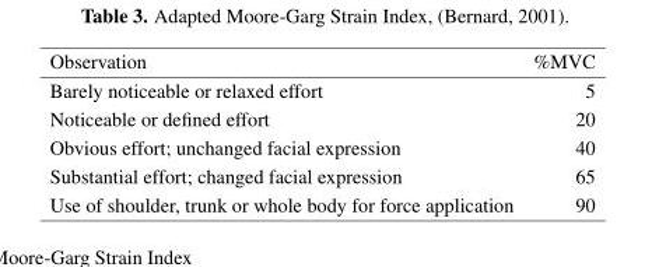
<table><thead><tr><td>Observation</td><td>%MVC</td></tr></thead><tbody><tr><td>Barely noticeable or relaxed effort</td><td>5</td></tr><tr><td>Noticeable or defined effort</td><td>20</td></tr><tr><td>Obvious effort; unchanged facial expression</td><td>40</td></tr><tr><td>Substantial effort; changed facial expression</td><td>65</td></tr><tr><td>Use of shoulder, trunk or whole body for force application</td><td>90</td></tr></tbody></table>